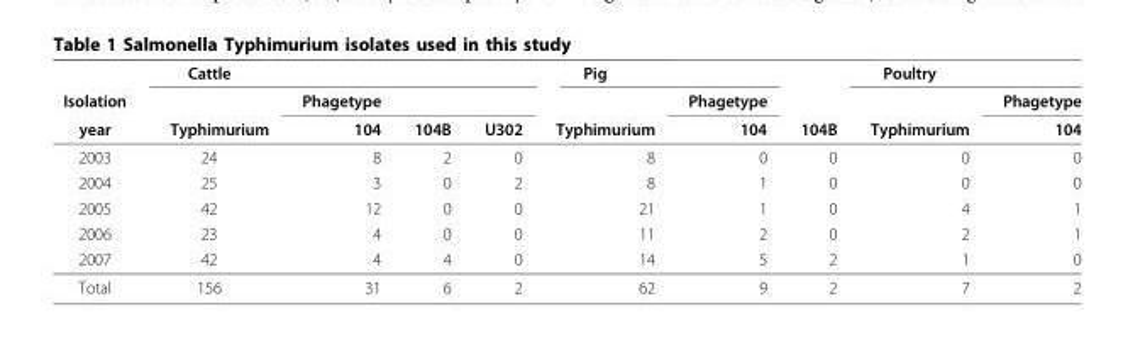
<table><thead><tr><td rowspan="3">Isolation year</td><td rowspan="3">Cattle Typhimurium</td><td rowspan="3">Phagetype 104</td><td rowspan="3">104B</td><td rowspan="3">U302</td><td rowspan="3">Pig Typhimurium</td><td rowspan="3">Phagetype 104</td><td rowspan="3">104B</td><td rowspan="3">Poultry Typhimurium</td><td rowspan="3">Phagetype 104</td></tr><tr></tr><tr></tr></thead><tbody><tr><td>2003</td><td>24</td><td>8</td><td>2</td><td>0</td><td>8</td><td>0</td><td>0</td><td>0</td><td>0</td></tr><tr><td>2004</td><td>25</td><td>3</td><td>0</td><td>2</td><td>8</td><td>1</td><td>0</td><td>0</td><td>0</td></tr><tr><td>2005</td><td>42</td><td>12</td><td>0</td><td>0</td><td>21</td><td>1</td><td>0</td><td>4</td><td>1</td></tr><tr><td>2006</td><td>23</td><td>4</td><td>0</td><td>0</td><td>11</td><td>2</td><td>0</td><td>2</td><td>1</td></tr><tr><td>2007</td><td>42</td><td>4</td><td>4</td><td>0</td><td>14</td><td>5</td><td>2</td><td>1</td><td>0</td></tr><tr><td>Total</td><td>156</td><td>31</td><td>6</td><td>2</td><td>62</td><td>9</td><td>2</td><td>7</td><td>2</td></tr></tbody></table>